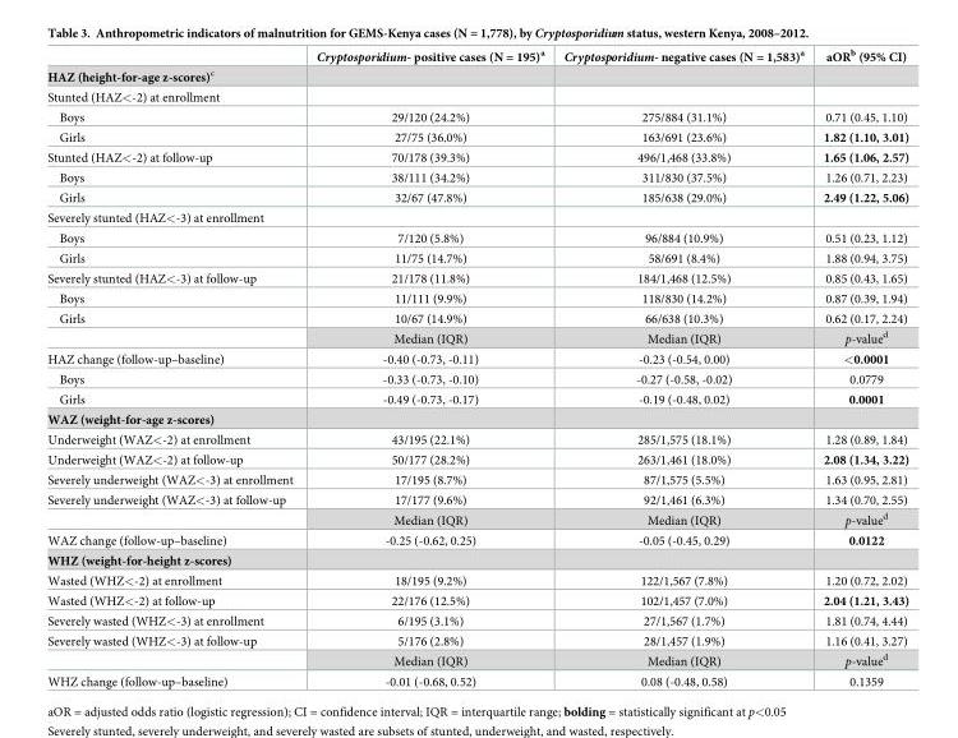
<table><thead><tr><td></td><td>Cryptosporidium- positive cases (N = 195)<sup>a</sup></td><td>Cryptosporidium- negative cases (N = 1,583)<sup>a</sup></td><td>aOR<sup>b</sup> (95% CI)</td></tr></thead><tbody><tr><td colspan="4">HAZ (height-for-age z-scores)<sup>c</sup></td></tr><tr><td colspan="4">Stunted (HAZ&lt;-2) at enrollment</td></tr><tr><td>Boys</td><td>29/120 (24.2%)</td><td>275/884 (31.1%)</td><td>0.71 (0.45, 1.10)</td></tr><tr><td>Girls</td><td>27/75 (36.0%)</td><td>163/691 (23.6%)</td><td>1.82 (1.10, 3.01)</td></tr><tr><td>Stunted (HAZ&lt;-2) at follow-up</td><td>70/178 (39.3%)</td><td>496/1,468 (33.8%)</td><td>1.65 (1.06, 2.57)</td></tr><tr><td>Boys</td><td>38/111 (34.2%)</td><td>311/830 (37.5%)</td><td>1.26 (0.71, 2.23)</td></tr><tr><td>Girls</td><td>32/67 (47.8%)</td><td>185/638 (29.0%)</td><td>2.49 (1.22, 5.06)</td></tr><tr><td colspan="4">Severely stunted (HAZ&lt;-3) at enrollment</td></tr><tr><td>Boys</td><td>7/120 (5.8%)</td><td>96/884 (10.9%)</td><td>0.51 (0.23, 1.12)</td></tr><tr><td>Girls</td><td>11/75 (14.7%)</td><td>58/691 (8.4%)</td><td>1.88 (0.94, 3.75)</td></tr><tr><td>Severely stunted (HAZ&lt;-3) at follow-up</td><td>21/178 (11.8%)</td><td>184/1,468 (12.5%)</td><td>0.85 (0.43, 1.65)</td></tr><tr><td>Boys</td><td>11/111 (9.9%)</td><td>118/830 (14.2%)</td><td>0.87 (0.39, 1.94)</td></tr><tr><td rowspan="2">Girls</td><td>10/67 (14.9%)</td><td>66/638 (10.3%)</td><td>0.62 (0.17, 2.24)</td></tr><tr><td>Median (IQR)</td><td>Median (IQR)</td><td>p-value<sup>d</sup></td></tr><tr><td>HAZ change (follow-up–baseline)</td><td>-0.40 (-0.73, -0.11)</td><td>-0.23 (-0.54, 0.00)</td><td>&lt;0.0001</td></tr><tr><td>Boys</td><td>-0.33 (-0.73, -0.10)</td><td>-0.27 (-0.58, -0.02)</td><td>0.0779</td></tr><tr><td>Girls</td><td>-0.49 (-0.73, -0.17)</td><td>-0.19 (-0.48, 0.02)</td><td>0.0001</td></tr><tr><td colspan="4">WAZ (weight-for-age z-scores)</td></tr><tr><td>Underweight (WAZ&lt;-2) at enrollment</td><td>43/195 (22.1%)</td><td>285/1,575 (18.1%)</td><td>1.28 (0.89, 1.84)</td></tr><tr><td>Underweight (WAZ&lt;-2) at follow-up</td><td>50/177 (28.2%)</td><td>263/1,461 (18.0%)</td><td>2.08 (1.34, 3.22)</td></tr><tr><td>Severely underweight (WAZ&lt;-3) at enrollment</td><td>17/195 (8.7%)</td><td>87/1,575 (5.5%)</td><td>1.63 (0.95, 2.81)</td></tr><tr><td rowspan="2">Severely underweight (WAZ&lt;-3) at follow-up</td><td>17/177 (9.6%)</td><td>92/1,461 (6.3%)</td><td>1.34 (0.70, 2.55)</td></tr><tr><td>Median (IQR)</td><td>Median (IQR)</td><td>p-value<sup>d</sup></td></tr><tr><td>WAZ change (follow-up–baseline)</td><td>-0.25 (-0.62, 0.25)</td><td>-0.05 (-0.45, 0.29)</td><td>0.0122</td></tr><tr><td colspan="4">WHZ (weight-for-height z-scores)</td></tr><tr><td>Wasted (WHZ&lt;-2) at enrollment</td><td>18/195 (9.2%)</td><td>122/1,567 (7.8%)</td><td>1.20 (0.72, 2.02)</td></tr><tr><td>Wasted (WHZ&lt;-2) at follow-up</td><td>22/176 (12.5%)</td><td>102/1,457 (7.0%)</td><td>2.04 (1.21, 3.43)</td></tr><tr><td>Severely wasted (WHZ&lt;-3) at enrollment</td><td>6/195 (3.1%)</td><td>27/1,567 (1.7%)</td><td>1.81 (0.74, 4.44)</td></tr><tr><td rowspan="2">Severely wasted (WHZ&lt;-3) at follow-up</td><td>5/176 (2.8%)</td><td>28/1,457 (1.9%)</td><td>1.16 (0.41, 3.27)</td></tr><tr><td>Median (IQR)</td><td>Median (IQR)</td><td>p-value<sup>d</sup></td></tr><tr><td>WHZ change (follow-up–baseline)</td><td>-0.01 (-0.68, 0.52)</td><td>0.08 (-0.48, 0.58)</td><td>0.1359</td></tr></tbody></table>